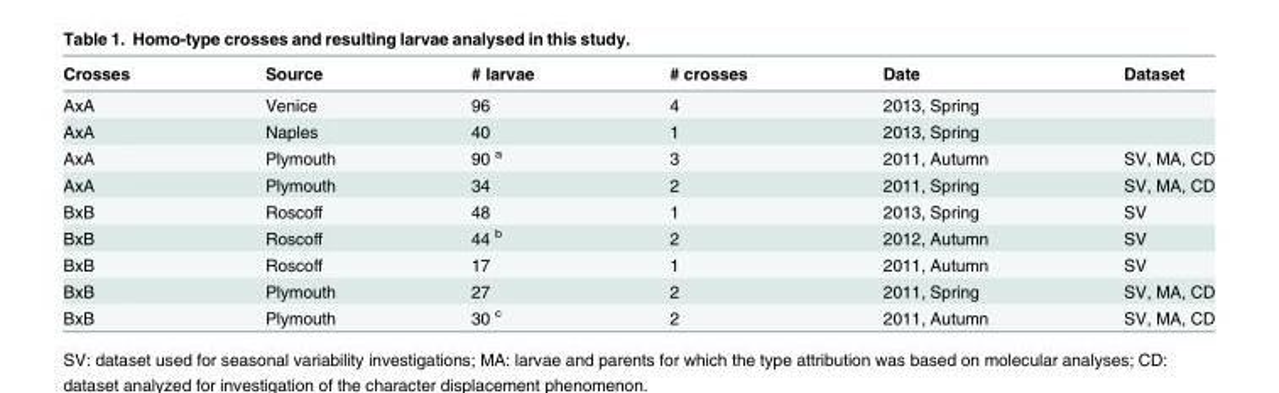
<table><thead><tr><td>Crosses</td><td>Source</td><td># larvae</td><td># crosses</td><td>Date</td><td>Dataset</td></tr></thead><tbody><tr><td>AxA</td><td>Venice</td><td>96</td><td>4</td><td>2013, Spring</td><td></td></tr><tr><td>AxA</td><td>Naples</td><td>40</td><td>1</td><td>2013, Spring</td><td></td></tr><tr><td>AxA</td><td>Plymouth</td><td>90 <sup>a</sup></td><td>3</td><td>2011, Autumn</td><td>SV, MA, CD</td></tr><tr><td>AxA</td><td>Plymouth</td><td>34</td><td>2</td><td>2011, Spring</td><td>SV, MA, CD</td></tr><tr><td>BxB</td><td>Roscoff</td><td>48</td><td>1</td><td>2013, Spring</td><td>SV</td></tr><tr><td>BxB</td><td>Roscoff</td><td>44 <sup>b</sup></td><td>2</td><td>2012, Autumn</td><td>SV</td></tr><tr><td>BxB</td><td>Roscoff</td><td>17</td><td>1</td><td>2011, Autumn</td><td>SV</td></tr><tr><td>BxB</td><td>Plymouth</td><td>27</td><td>2</td><td>2011, Spring</td><td>SV, MA, CD</td></tr><tr><td>BxB</td><td>Plymouth</td><td>30 <sup>c</sup></td><td>2</td><td>2011, Autumn</td><td>SV, MA, CD</td></tr></tbody></table>